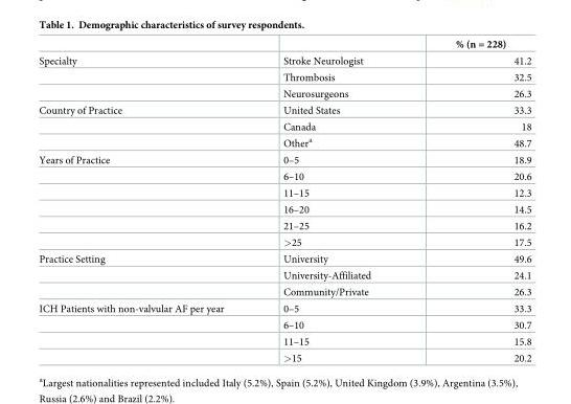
<table><thead><tr><td></td><td></td><td>% (n = 228)</td></tr></thead><tbody><tr><td rowspan="3">Specialty</td><td>Stroke Neurologist</td><td>41.2</td></tr><tr><td>Thrombosis</td><td>32.5</td></tr><tr><td>Neurosurgeons</td><td>26.3</td></tr><tr><td rowspan="3">Country of Practice</td><td>United States</td><td>33.3</td></tr><tr><td>Canada</td><td>18</td></tr><tr><td>Other<sup>a</sup></td><td>48.7</td></tr><tr><td rowspan="6">Years of Practice</td><td>0–5</td><td>18.9</td></tr><tr><td>6–10</td><td>20.6</td></tr><tr><td>11–15</td><td>12.3</td></tr><tr><td>16–20</td><td>14.5</td></tr><tr><td>21–25</td><td>16.2</td></tr><tr><td>&gt;25</td><td>17.5</td></tr><tr><td rowspan="3">Practice Setting</td><td>University</td><td>49.6</td></tr><tr><td>University-Affiliated</td><td>24.1</td></tr><tr><td>Community/Private</td><td>26.3</td></tr><tr><td rowspan="4">ICH Patients with non-valvular AF per year</td><td>0–5</td><td>33.3</td></tr><tr><td>6–10</td><td>30.7</td></tr><tr><td>11–15</td><td>15.8</td></tr><tr><td>&gt;15</td><td>20.2</td></tr></tbody></table>